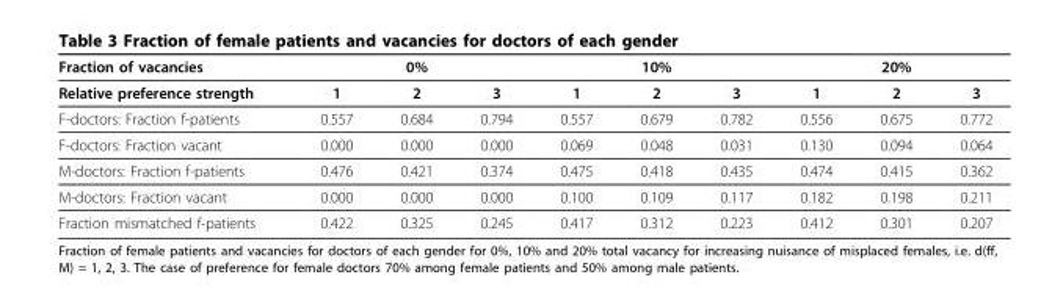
<table><thead><tr><td rowspan="2">Fraction of vacancies Relative preference strength</td><td colspan="3">0%</td><td colspan="3">10%</td><td colspan="3">20%</td></tr><tr><td>1</td><td>2</td><td>3</td><td>1</td><td>2</td><td>3</td><td>1</td><td>2</td><td>3</td></tr></thead><tbody><tr><td>F-doctors: Fraction f-patients</td><td>0.557</td><td>0.684</td><td>0.794</td><td>0.557</td><td>0.679</td><td>0.782</td><td>0.556</td><td>0.675</td><td>0.772</td></tr><tr><td>F-doctors: Fraction vacant</td><td>0.000</td><td>0.000</td><td>0.000</td><td>0.069</td><td>0.048</td><td>0.031</td><td>0.130</td><td>0.094</td><td>0.064</td></tr><tr><td>M-doctors: Fraction f-patients</td><td>0.476</td><td>0.421</td><td>0.374</td><td>0.475</td><td>0.418</td><td>0.435</td><td>0.474</td><td>0.415</td><td>0.362</td></tr><tr><td>M-doctors: Fraction vacant</td><td>0.000</td><td>0.000</td><td>0.000</td><td>0.100</td><td>0.109</td><td>0.117</td><td>0.182</td><td>0.198</td><td>0.211</td></tr><tr><td>Fraction mismatched f-patients</td><td>0.422</td><td>0.325</td><td>0.245</td><td>0.417</td><td>0.312</td><td>0.223</td><td>0.412</td><td>0.301</td><td>0.207</td></tr></tbody></table>